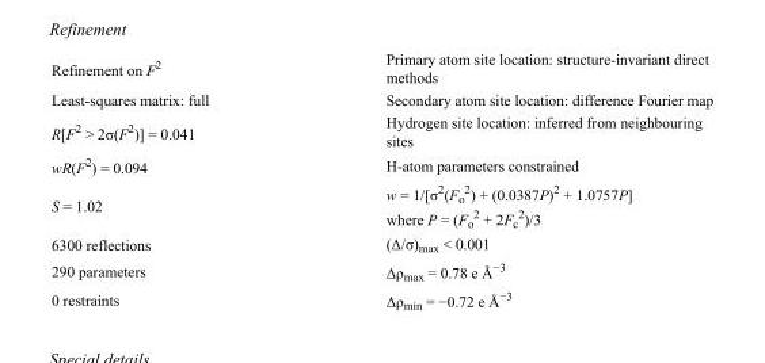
<table><tbody><tr><td>Refinement on F<sup>2</sup></td><td>Primary atom site location: structure-invariant direct methods</td></tr><tr><td>Least-squares matrix: full</td><td>Secondary atom site location: difference Fourier map</td></tr><tr><td>R[F<sup>2</sup> &gt; 2σ(F<sup>2</sup>)] = 0.041</td><td>Hydrogen site location: inferred from neighbouring sites</td></tr><tr><td>wR(F<sup>2</sup>) = 0.094</td><td>H-atom parameters constrained</td></tr><tr><td>S = 1.02</td><td>w = 1/[σ<sup>2</sup>(F<sub>o</sub> <sup>2</sup>) + (0.0387P)<sup>2</sup> + 1.0757P] where P = (F<sub>o</sub> <sup>2</sup> + 2F<sub>c</sub> <sup>2</sup>)/3</td></tr><tr><td>6300 reflections</td><td>(Δ/σ)<sub>max</sub> &lt; 0.001</td></tr><tr><td>290 parameters</td><td>Δρ<sub>max</sub> = 0.78 e Å<sup>−3</sup></td></tr><tr><td>0 restraints</td><td>Δρ<sub>min</sub> = −0.72 e Å<sup>−3</sup></td></tr></tbody></table>